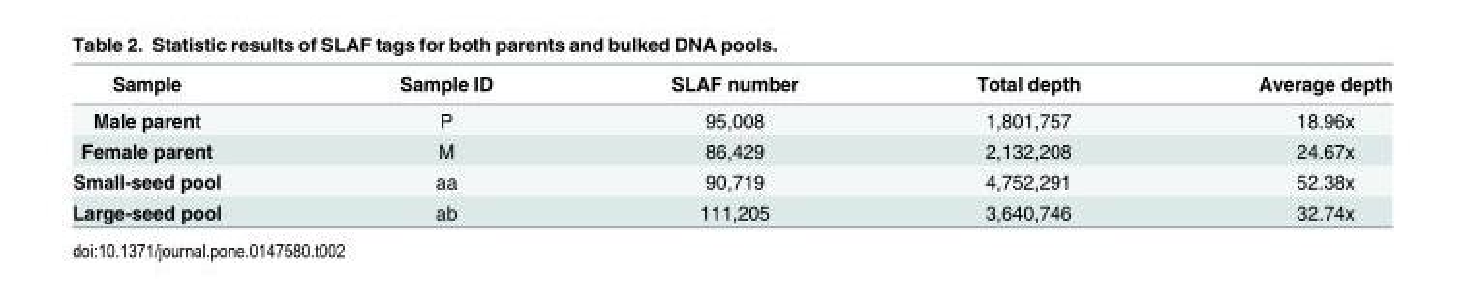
<table><thead><tr><td>Sample</td><td>Sample ID</td><td>SLAF number</td><td>Total depth</td><td>Average depth</td></tr></thead><tbody><tr><td>Male parent</td><td>P</td><td>95,008</td><td>1,801,757</td><td>18.96x</td></tr><tr><td>Female parent</td><td>M</td><td>86,429</td><td>2,132,208</td><td>24.67x</td></tr><tr><td>Small-seed pool</td><td>aa</td><td>90,719</td><td>4,752,291</td><td>52.38x</td></tr><tr><td>Large-seed pool</td><td>ab</td><td>111,205</td><td>3,640,746</td><td>32.74x</td></tr></tbody></table>